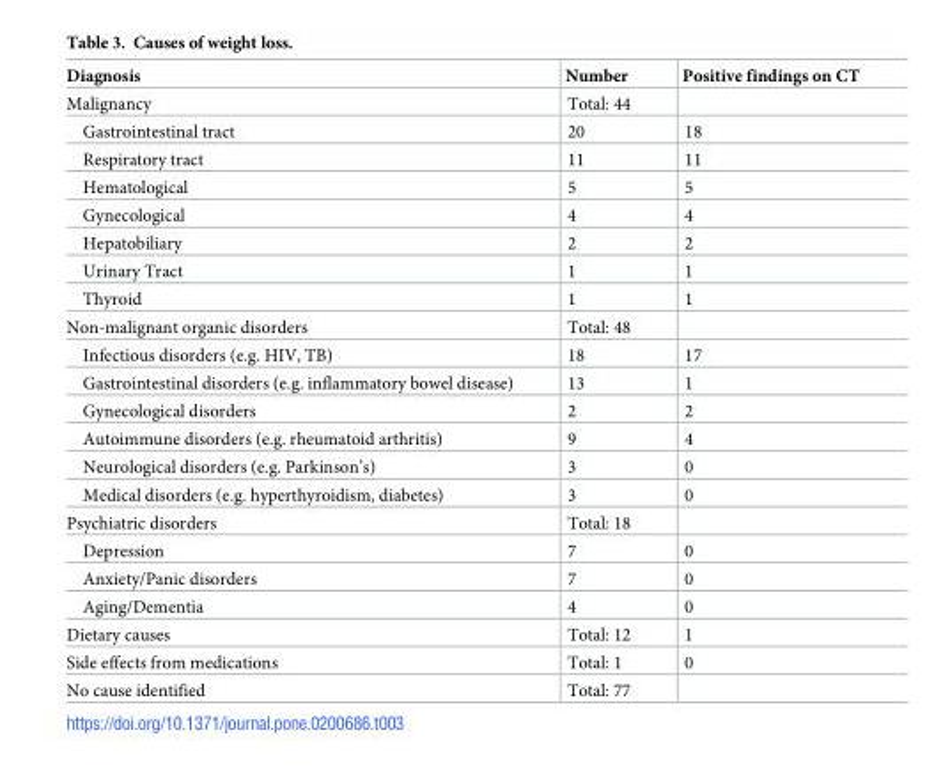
<table><thead><tr><td>Diagnosis</td><td>Number</td><td>Positive findings on CT</td></tr></thead><tbody><tr><td>Malignancy</td><td>Total: 44</td><td></td></tr><tr><td>Gastrointestinal tract</td><td>20</td><td>18</td></tr><tr><td>Respiratory tract</td><td>11</td><td>11</td></tr><tr><td>Hematological</td><td>5</td><td>5</td></tr><tr><td>Gynecological</td><td>4</td><td>4</td></tr><tr><td>Hepatobiliary</td><td>2</td><td>2</td></tr><tr><td>Urinary Tract</td><td>1</td><td>1</td></tr><tr><td>Thyroid</td><td>1</td><td>1</td></tr><tr><td>Non-malignant organic disorders</td><td>Total: 48</td><td></td></tr><tr><td>Infectious disorders (e.g. HIV, TB)</td><td>18</td><td>17</td></tr><tr><td>Gastrointestinal disorders (e.g. inflammatory bowel disease)</td><td>13</td><td>1</td></tr><tr><td>Gynecological disorders</td><td>2</td><td>2</td></tr><tr><td>Autoimmune disorders (e.g. rheumatoid arthritis)</td><td>9</td><td>4</td></tr><tr><td>Neurological disorders (e.g. Parkinson’s)</td><td>3</td><td>0</td></tr><tr><td>Medical disorders (e.g. hyperthyroidism, diabetes)</td><td>3</td><td>0</td></tr><tr><td>Psychiatric disorders</td><td>Total: 18</td><td></td></tr><tr><td>Depression</td><td>7</td><td>0</td></tr><tr><td>Anxiety/Panic disorders</td><td>7</td><td>0</td></tr><tr><td>Aging/Dementia</td><td>4</td><td>0</td></tr><tr><td>Dietary causes</td><td>Total: 12</td><td>1</td></tr><tr><td>Side effects from medications</td><td>Total: 1</td><td>0</td></tr><tr><td>No cause identified</td><td>Total: 77</td><td></td></tr></tbody></table>